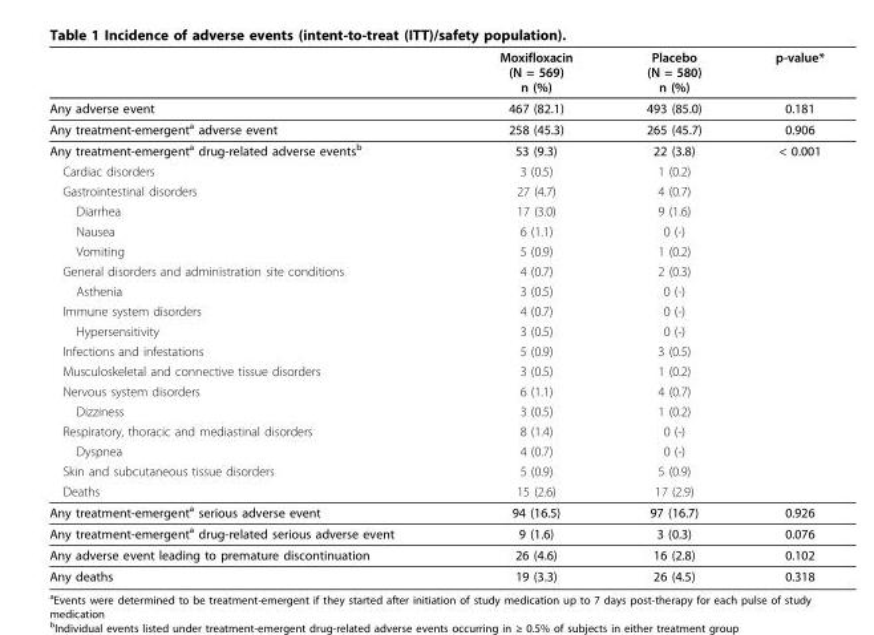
<table><thead><tr><td></td><td>Moxifloxacin (N = 569) n (%)</td><td>Placebo (N = 580) n (%)</td><td>p-value*</td></tr></thead><tbody><tr><td>Any adverse event</td><td>467 (82.1)</td><td>493 (85.0)</td><td>0.181</td></tr><tr><td>Any treatment-emergent<sup>a</sup> adverse event</td><td>258 (45.3)</td><td>265 (45.7)</td><td>0.906</td></tr><tr><td>Any treatment-emergent<sup>a</sup> drug-related adverse events<sup>b</sup></td><td>53 (9.3)</td><td>22 (3.8)</td><td>&lt; 0.001</td></tr><tr><td>Cardiac disorders</td><td>3 (0.5)</td><td>1 (0.2)</td><td></td></tr><tr><td>Gastrointestinal disorders</td><td>27 (4.7)</td><td>4 (0.7)</td><td></td></tr><tr><td>Diarrhea</td><td>17 (3.0)</td><td>9 (1.6)</td><td></td></tr><tr><td>Nausea</td><td>6 (1.1)</td><td>0 (-)</td><td></td></tr><tr><td>Vomiting</td><td>5 (0.9)</td><td>1 (0.2)</td><td></td></tr><tr><td>General disorders and administration site conditions</td><td>4 (0.7)</td><td>2 (0.3)</td><td></td></tr><tr><td>Asthenia</td><td>3 (0.5)</td><td>0 (-)</td><td></td></tr><tr><td>Immune system disorders</td><td>4 (0.7)</td><td>0 (-)</td><td></td></tr><tr><td>Hypersensitivity</td><td>3 (0.5)</td><td>0 (-)</td><td></td></tr><tr><td>Infections and infestations</td><td>5 (0.9)</td><td>3 (0.5)</td><td></td></tr><tr><td>Musculoskeletal and connective tissue disorders</td><td>3 (0.5)</td><td>1 (0.2)</td><td></td></tr><tr><td>Nervous system disorders</td><td>6 (1.1)</td><td>4 (0.7)</td><td></td></tr><tr><td>Dizziness</td><td>3 (0.5)</td><td>1 (0.2)</td><td></td></tr><tr><td>Respiratory, thoracic and mediastinal disorders</td><td>8 (1.4)</td><td>0 (-)</td><td></td></tr><tr><td>Dyspnea</td><td>4 (0.7)</td><td>0 (-)</td><td></td></tr><tr><td>Skin and subcutaneous tissue disorders</td><td>5 (0.9)</td><td>5 (0.9)</td><td></td></tr><tr><td>Deaths</td><td>15 (2.6)</td><td>17 (2.9)</td><td></td></tr><tr><td>Any treatment-emergent<sup>a</sup> serious adverse event</td><td>94 (16.5)</td><td>97 (16.7)</td><td>0.926</td></tr><tr><td>Any treatment-emergent<sup>a</sup> drug-related serious adverse event</td><td>9 (1.6)</td><td>3 (0.3)</td><td>0.076</td></tr><tr><td>Any adverse event leading to premature discontinuation</td><td>26 (4.6)</td><td>16 (2.8)</td><td>0.102</td></tr><tr><td>Any deaths</td><td>19 (3.3)</td><td>26 (4.5)</td><td>0.318</td></tr></tbody></table>